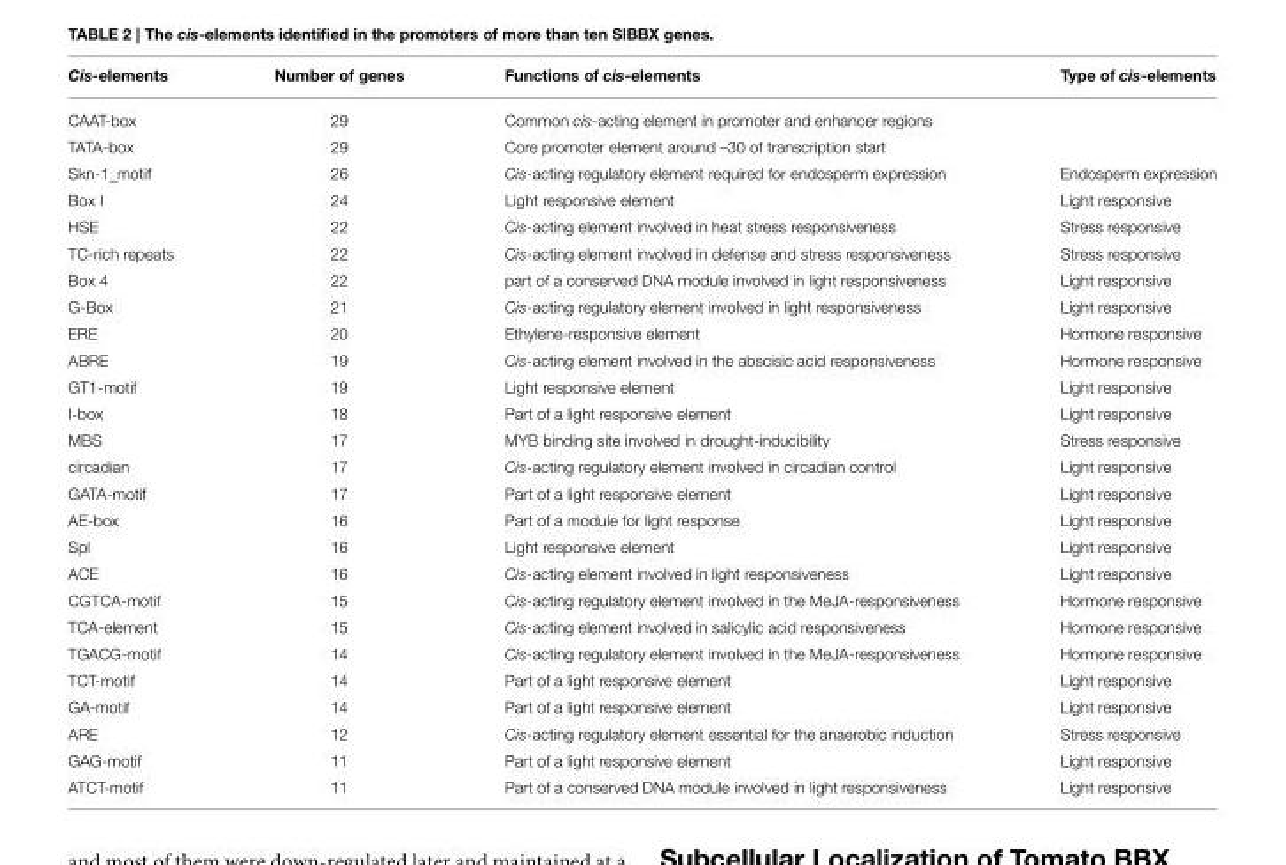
<table><thead><tr><td>Cis-elements</td><td>Number of genes</td><td>Functions of cis-elements</td><td>Type of cis-elements</td></tr></thead><tbody><tr><td>CAAT-box</td><td>29</td><td>Common cis-acting element in promoter and enhancer regions</td><td></td></tr><tr><td>TATA-box</td><td>29</td><td>Core promoter element around –30 of transcription start</td><td></td></tr><tr><td>Skn-1_motif</td><td>26</td><td>Cis-acting regulatory element required for endosperm expression</td><td>Endosperm expression</td></tr><tr><td>Box I</td><td>24</td><td>Light responsive element</td><td>Light responsive</td></tr><tr><td>HSE</td><td>22</td><td>Cis-acting element involved in heat stress responsiveness</td><td>Stress responsive</td></tr><tr><td>TC-rich repeats</td><td>22</td><td>Cis-acting element involved in defense and stress responsiveness</td><td>Stress responsive</td></tr><tr><td>Box 4</td><td>22</td><td>part of a conserved DNA module involved in light responsiveness</td><td>Light responsive</td></tr><tr><td>G-Box</td><td>21</td><td>Cis-acting regulatory element involved in light responsiveness</td><td>Light responsive</td></tr><tr><td>ERE</td><td>20</td><td>Ethylene-responsive element</td><td>Hormone responsive</td></tr><tr><td>ABRE</td><td>19</td><td>Cis-acting element involved in the abscisic acid responsiveness</td><td>Hormone responsive</td></tr><tr><td>GT1-motif</td><td>19</td><td>Light responsive element</td><td>Light responsive</td></tr><tr><td>I-box</td><td>18</td><td>Part of a light responsive element</td><td>Light responsive</td></tr><tr><td>MBS</td><td>17</td><td>MYB binding site involved in drought-inducibility</td><td>Stress responsive</td></tr><tr><td>circadian</td><td>17</td><td>Cis-acting regulatory element involved in circadian control</td><td>Light responsive</td></tr><tr><td>GATA-motif</td><td>17</td><td>Part of a light responsive element</td><td>Light responsive</td></tr><tr><td>AE-box</td><td>16</td><td>Part of a module for light response</td><td>Light responsive</td></tr><tr><td>Spl</td><td>16</td><td>Light responsive element</td><td>Light responsive</td></tr><tr><td>ACE</td><td>16</td><td>Cis-acting element involved in light responsiveness</td><td>Light responsive</td></tr><tr><td>CGTCA-motif</td><td>15</td><td>Cis-acting regulatory element involved in the MeJA-responsiveness</td><td>Hormone responsive</td></tr><tr><td>TCA-element</td><td>15</td><td>Cis-acting element involved in salicylic acid responsiveness</td><td>Hormone responsive</td></tr><tr><td>TGACG-motif</td><td>14</td><td>Cis-acting regulatory element involved in the MeJA-responsiveness</td><td>Hormone responsive</td></tr><tr><td>TCT-motif</td><td>14</td><td>Part of a light responsive element</td><td>Light responsive</td></tr><tr><td>GA-motif</td><td>14</td><td>Part of a light responsive element</td><td>Light responsive</td></tr><tr><td>ARE</td><td>12</td><td>Cis-acting regulatory element essential for the anaerobic induction</td><td>Stress responsive</td></tr><tr><td>GAG-motif</td><td>11</td><td>Part of a light responsive element</td><td>Light responsive</td></tr><tr><td>ATCT-motif</td><td>11</td><td>Part of a conserved DNA module involved in light responsiveness</td><td>Light responsive</td></tr></tbody></table>